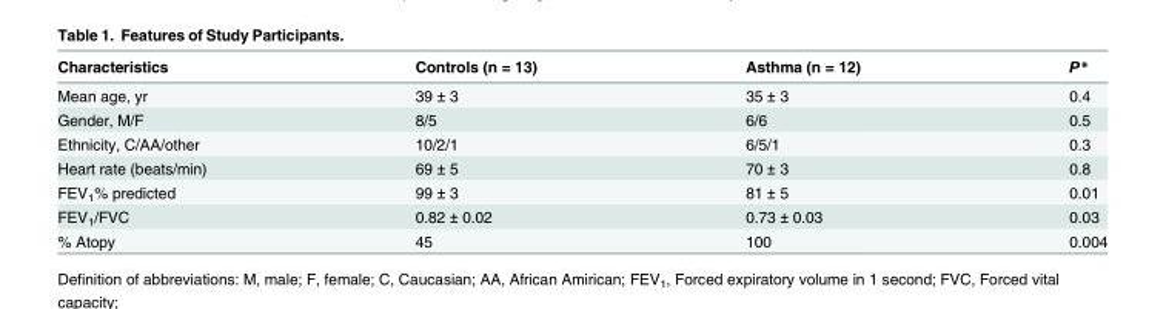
<table><thead><tr><td>Characteristics</td><td>Controls (n = 13)</td><td>Asthma (n = 12)</td><td>P*</td></tr></thead><tbody><tr><td>Mean age, yr</td><td>39 ± 3</td><td>35 ± 3</td><td>0.4</td></tr><tr><td>Gender, M/F</td><td>8/5</td><td>6/6</td><td>0.5</td></tr><tr><td>Ethnicity, C/AA/other</td><td>10/2/1</td><td>6/5/1</td><td>0.3</td></tr><tr><td>Heart rate (beats/min)</td><td>69 ± 5</td><td>70 ± 3</td><td>0.8</td></tr><tr><td>FEV<sub>1</sub>% predicted</td><td>99 ± 3</td><td>81 ± 5</td><td>0.01</td></tr><tr><td>FEV<sub>1</sub>/FVC</td><td>0.82 ± 0.02</td><td>0.73 ± 0.03</td><td>0.03</td></tr><tr><td>% Atopy</td><td>45</td><td>100</td><td>0.004</td></tr></tbody></table>